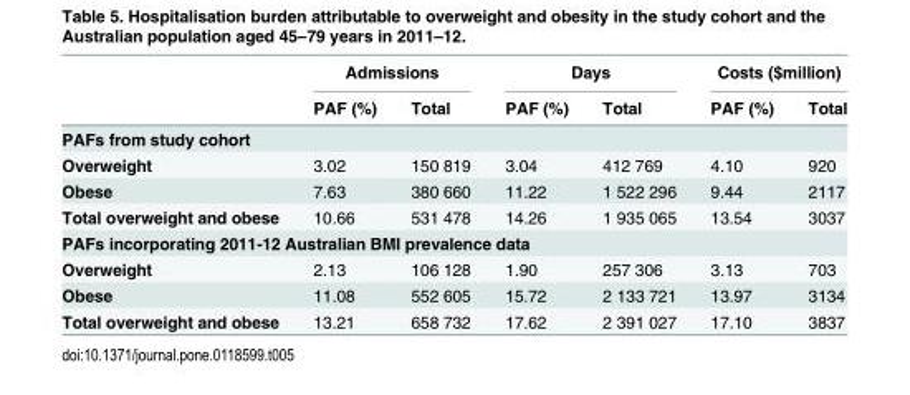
<table><thead><tr><td rowspan="2"></td><td colspan="2">Admissions</td><td colspan="2">Days</td><td colspan="2">Costs ($million)</td></tr><tr><td>PAF (%)</td><td>Total</td><td>PAF (%)</td><td>Total</td><td>PAF (%)</td><td>Total</td></tr></thead><tbody><tr><td colspan="7">PAFs from study cohort</td></tr><tr><td>Overweight</td><td>3.02</td><td>150 819</td><td>3.04</td><td>412 769</td><td>4.10</td><td>920</td></tr><tr><td>Obese</td><td>7.63</td><td>380 660</td><td>11.22</td><td>1 522 296</td><td>9.44</td><td>2117</td></tr><tr><td>Total overweight and obese</td><td>10.66</td><td>531 478</td><td>14.26</td><td>1 935 065</td><td>13.54</td><td>3037</td></tr><tr><td colspan="7">PAFs incorporating 2011-12 Australian BMI prevalence data</td></tr><tr><td>Overweight</td><td>2.13</td><td>106 128</td><td>1.90</td><td>257 306</td><td>3.13</td><td>703</td></tr><tr><td>Obese</td><td>11.08</td><td>552 605</td><td>15.72</td><td>2 133 721</td><td>13.97</td><td>3134</td></tr><tr><td>Total overweight and obese</td><td>13.21</td><td>658 732</td><td>17.62</td><td>2 391 027</td><td>17.10</td><td>3837</td></tr></tbody></table>